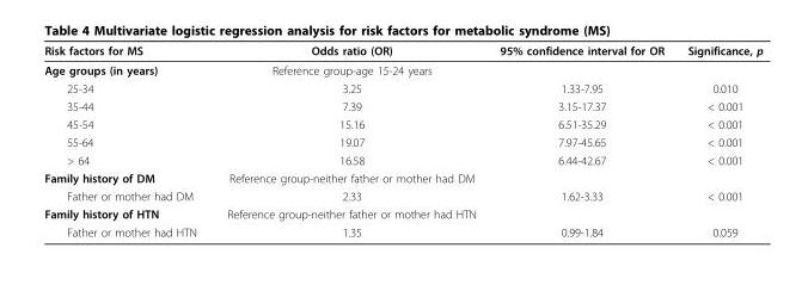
<table><thead><tr><td>Risk factors for MS</td><td>Odds ratio (OR)</td><td>95% confidence interval for OR</td><td>Significance, p</td></tr></thead><tbody><tr><td>Age groups (in years)</td><td>Reference group-age 15-24 years</td><td></td><td></td></tr><tr><td>25-34</td><td>3.25</td><td>1.33-7.95</td><td>0.010</td></tr><tr><td>35-44</td><td>7.39</td><td>3.15-17.37</td><td>&lt; 0.001</td></tr><tr><td>45-54</td><td>15.16</td><td>6.51-35.29</td><td>&lt; 0.001</td></tr><tr><td>55-64</td><td>19.07</td><td>7.97-45.65</td><td>&lt; 0.001</td></tr><tr><td>&gt; 64</td><td>16.58</td><td>6.44-42.67</td><td>&lt; 0.001</td></tr><tr><td>Family history of DM</td><td>Reference group-neither father or mother had DM</td><td></td><td></td></tr><tr><td>Father or mother had DM</td><td>2.33</td><td>1.62-3.33</td><td>&lt; 0.001</td></tr><tr><td>Family history of HTN</td><td>Reference group-neither father or mother had HTN</td><td></td><td></td></tr><tr><td>Father or mother had HTN</td><td>1.35</td><td>0.99-1.84</td><td>0.059</td></tr></tbody></table>